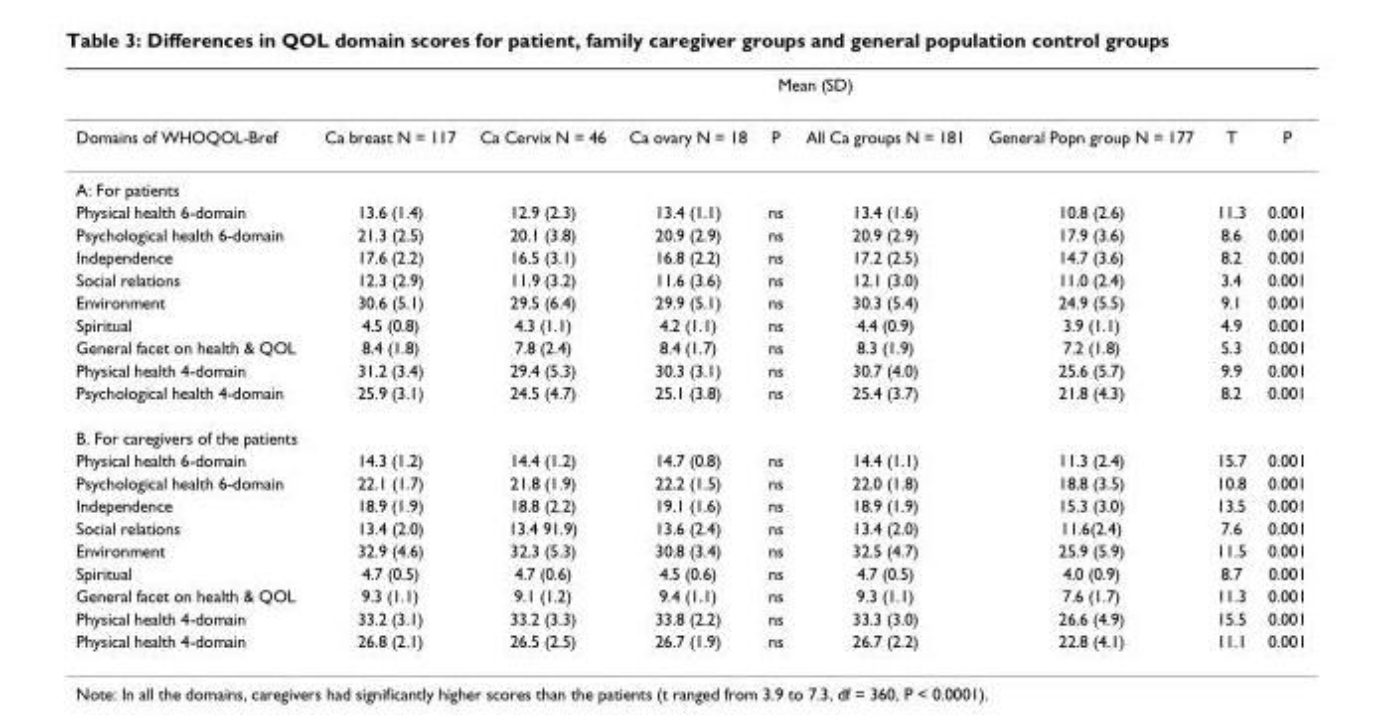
<table><thead><tr><td rowspan="2">Domains of WHOQOL-Bref</td><td colspan="8">Mean (SD)</td></tr><tr><td>Ca breast N = 117</td><td>Ca Cervix N = 46</td><td>Ca ovary N = 18</td><td>P</td><td>All Ca groups N = 181</td><td>General Popn group N = 177</td><td>T</td><td>P</td></tr></thead><tbody><tr><td colspan="9">A: For patients</td></tr><tr><td>Physical health 6-domain</td><td>13.6 (1.4)</td><td>12.9 (2.3)</td><td>13.4 (1.1)</td><td>ns</td><td>13.4 (1.6)</td><td>10.8 (2.6)</td><td>11.3</td><td>0.001</td></tr><tr><td>Psychological health 6-domain</td><td>21.3 (2.5)</td><td>20.1 (3.8)</td><td>20.9 (2.9)</td><td>ns</td><td>20.9 (2.9)</td><td>17.9 (3.6)</td><td>8.6</td><td>0.001</td></tr><tr><td>Independence</td><td>17.6 (2.2)</td><td>16.5 (3.1)</td><td>16.8 (2.2)</td><td>ns</td><td>17.2 (2.5)</td><td>14.7 (3.6)</td><td>8.2</td><td>0.001</td></tr><tr><td>Social relations</td><td>12.3 (2.9)</td><td>11.9 (3.2)</td><td>11.6 (3.6)</td><td>ns</td><td>12.1 (3.0)</td><td>11.0 (2.4)</td><td>3.4</td><td>0.001</td></tr><tr><td>Environment</td><td>30.6 (5.1)</td><td>29.5 (6.4)</td><td>29.9 (5.1)</td><td>ns</td><td>30.3 (5.4)</td><td>24.9 (5.5)</td><td>9.1</td><td>0.001</td></tr><tr><td>Spiritual</td><td>4.5 (0.8)</td><td>4.3 (1.1)</td><td>4.2 (1.1)</td><td>ns</td><td>4.4 (0.9)</td><td>3.9 (1.1)</td><td>4.9</td><td>0.001</td></tr><tr><td>General facet on health &amp; QOL</td><td>8.4 (1.8)</td><td>7.8 (2.4)</td><td>8.4 (1.7)</td><td>ns</td><td>8.3 (1.9)</td><td>7.2 (1.8)</td><td>5.3</td><td>0.001</td></tr><tr><td>Physical health 4-domain</td><td>31.2 (3.4)</td><td>29.4 (5.3)</td><td>30.3 (3.1)</td><td>ns</td><td>30.7 (4.0)</td><td>25.6 (5.7)</td><td>9.9</td><td>0.001</td></tr><tr><td>Psychological health 4-domain</td><td>25.9 (3.1)</td><td>24.5 (4.7)</td><td>25.1 (3.8)</td><td>ns</td><td>25.4 (3.7)</td><td>21.8 (4.3)</td><td>8.2</td><td>0.001</td></tr><tr><td colspan="9">B. For caregivers of the patients</td></tr><tr><td>Physical health 6-domain</td><td>14.3 (1.2)</td><td>14.4 (1.2)</td><td>14.7 (0.8)</td><td>ns</td><td>14.4 (1.1)</td><td>11.3 (2.4)</td><td>15.7</td><td>0.001</td></tr><tr><td>Psychological health 6-domain</td><td>22.1 (1.7)</td><td>21.8 (1.9)</td><td>22.2 (1.5)</td><td>ns</td><td>22.0 (1.8)</td><td>18.8 (3.5)</td><td>10.8</td><td>0.001</td></tr><tr><td>Independence</td><td>18.9 (1.9)</td><td>18.8 (2.2)</td><td>19.1 (1.6)</td><td>ns</td><td>18.9 (1.9)</td><td>15.3 (3.0)</td><td>13.5</td><td>0.001</td></tr><tr><td>Social relations</td><td>13.4 (2.0)</td><td>13.4 91.9)</td><td>13.6 (2.4)</td><td>ns</td><td>13.4 (2.0)</td><td>11.6(2.4)</td><td>7.6</td><td>0.001</td></tr><tr><td>Environment</td><td>32.9 (4.6)</td><td>32.3 (5.3)</td><td>30.8 (3.4)</td><td>ns</td><td>32.5 (4.7)</td><td>25.9 (5.9)</td><td>11.5</td><td>0.001</td></tr><tr><td>Spiritual</td><td>4.7 (0.5)</td><td>4.7 (0.6)</td><td>4.5 (0.6)</td><td>ns</td><td>4.7 (0.5)</td><td>4.0 (0.9)</td><td>8.7</td><td>0.001</td></tr><tr><td>General facet on health &amp; QOL</td><td>9.3 (1.1)</td><td>9.1 (1.2)</td><td>9.4 (1.1)</td><td>ns</td><td>9.3 (1.1)</td><td>7.6 (1.7)</td><td>11.3</td><td>0.001</td></tr><tr><td>Physical health 4-domain</td><td>33.2 (3.1)</td><td>33.2 (3.3)</td><td>33.8 (2.2)</td><td>ns</td><td>33.3 (3.0)</td><td>26.6 (4.9)</td><td>15.5</td><td>0.001</td></tr><tr><td>Physical health 4-domain</td><td>26.8 (2.1)</td><td>26.5 (2.5)</td><td>26.7 (1.9)</td><td>ns</td><td>26.7 (2.2)</td><td>22.8 (4.1)</td><td>11.1</td><td>0.001</td></tr></tbody></table>